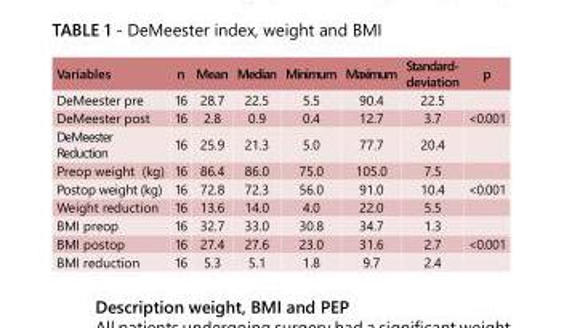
<table><tbody><tr><td>Variables</td><td>n</td><td>Mean</td><td>Median</td><td>Minimum</td><td>Maximum</td><td>Standard- deviation</td><td>p</td></tr><tr><td>DeMeester pre</td><td>16</td><td>28.7</td><td>22.5</td><td>5.5</td><td>90.4</td><td>22.5</td><td></td></tr><tr><td>DeMeester post</td><td>16</td><td>2.8</td><td>0.9</td><td>0.4</td><td>12.7</td><td>3.7</td><td>&lt;0.001</td></tr><tr><td>DeMeester Reduction</td><td>16</td><td>25.9</td><td>21.3</td><td>5.0</td><td>77.7</td><td>20.4</td><td></td></tr><tr><td>Preop weight (kg)</td><td>16</td><td>86.4</td><td>86.0</td><td>75.0</td><td>105.0</td><td>7.5</td><td></td></tr><tr><td>Postop weight (kg)</td><td>16</td><td>72.8</td><td>72.3</td><td>56.0</td><td>91.0</td><td>10.4</td><td>&lt;0.001</td></tr><tr><td>Weight reduction</td><td>16</td><td>13.6</td><td>14.0</td><td>4.0</td><td>22.0</td><td>5.5</td><td></td></tr><tr><td>BMI preop</td><td>16</td><td>32.7</td><td>33.0</td><td>30.8</td><td>34.7</td><td>1.3</td><td></td></tr><tr><td>BMI postop</td><td>16</td><td>27.4</td><td>27.6</td><td>23.0</td><td>31.6</td><td>2.7</td><td>&lt;0.001</td></tr><tr><td>BMI reduction</td><td>16</td><td>5.3</td><td>5.1</td><td>1.8</td><td>9.7</td><td>2.4</td><td></td></tr></tbody></table>